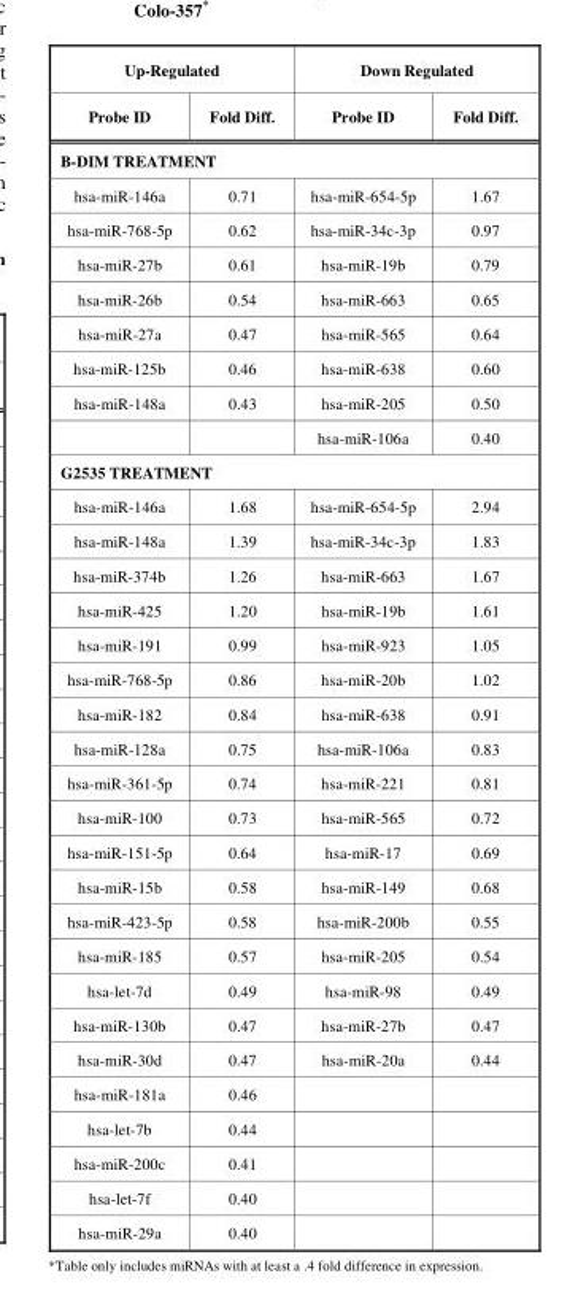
<table><thead><tr><td colspan="2">Up-Regulated</td><td colspan="2">Down Regulated</td></tr><tr><td>Probe ID</td><td>Fold Diff.</td><td>Probe ID</td><td>Fold Diff.</td></tr></thead><tbody><tr><td colspan="4">B-DIM TREATMENT</td></tr><tr><td>hsa-miR-146a</td><td>0.71</td><td>hsa-miR-654-5p</td><td>1.67</td></tr><tr><td>hsa-miR-768-5p</td><td>0.62</td><td>hsa-miR-34c-3p</td><td>0.97</td></tr><tr><td>hsa-miR-27b</td><td>0.61</td><td>hsa-miR-19b</td><td>0.79</td></tr><tr><td>hsa-miR-26b</td><td>0.54</td><td>hsa-miR-663</td><td>0.65</td></tr><tr><td>hsa-miR-27a</td><td>0.47</td><td>hsa-miR-565</td><td>0.64</td></tr><tr><td>hsa-miR-125b</td><td>0.46</td><td>hsa-miR-638</td><td>0.60</td></tr><tr><td rowspan="2">hsa-miR-148a</td><td>0.43</td><td>hsa-miR-205</td><td>0.50</td></tr><tr><td></td><td>hsa-miR-106a</td><td>0.40</td></tr><tr><td colspan="4">G2535 TREATMENT</td></tr><tr><td>hsa-miR-146a</td><td>1.68</td><td>hsa-miR-654-5p</td><td>2.94</td></tr><tr><td>hsa-miR-148a</td><td>1.39</td><td>hsa-miR-34c-3p</td><td>1.83</td></tr><tr><td>hsa-miR-374b</td><td>1.26</td><td>hsa-miR-663</td><td>1.67</td></tr><tr><td>hsa-miR-425</td><td>1.20</td><td>hsa-miR-19b</td><td>1.61</td></tr><tr><td>hsa-miR-191</td><td>0.99</td><td>hsa-miR-923</td><td>1.05</td></tr><tr><td>hsa-miR-768-5p</td><td>0.86</td><td>hsa-miR-20b</td><td>1.02</td></tr><tr><td>hsa-miR-182</td><td>0.84</td><td>hsa-miR-638</td><td>0.91</td></tr><tr><td>hsa-miR-128a</td><td>0.75</td><td>hsa-miR-106a</td><td>0.83</td></tr><tr><td>hsa-miR-361-5p</td><td>0.74</td><td>hsa-miR-221</td><td>0.81</td></tr><tr><td>hsa-miR-100</td><td>0.73</td><td>hsa-miR-565</td><td>0.72</td></tr><tr><td>hsa-miR-151-5p</td><td>0.64</td><td>hsa-miR-17</td><td>0.69</td></tr><tr><td>hsa-miR-15b</td><td>0.58</td><td>hsa-miR-149</td><td>0.68</td></tr><tr><td>hsa-miR-423-5p</td><td>0.58</td><td>hsa-miR-200b</td><td>0.55</td></tr><tr><td>hsa-miR-185</td><td>0.57</td><td>hsa-miR-205</td><td>0.54</td></tr><tr><td>hsa-let-7d</td><td>0.49</td><td>hsa-miR-98</td><td>0.49</td></tr><tr><td>hsa-miR-130b</td><td>0.47</td><td>hsa-miR-27b</td><td>0.47</td></tr><tr><td>hsa-miR-30d</td><td>0.47</td><td>hsa-miR-20a</td><td>0.44</td></tr><tr><td>hsa-miR-181a</td><td>0.46</td><td></td><td></td></tr><tr><td>hsa-let-7b</td><td>0.44</td><td></td><td></td></tr><tr><td>hsa-miR-200c</td><td>0.41</td><td></td><td></td></tr><tr><td>hsa-let-7f</td><td>0.40</td><td></td><td></td></tr><tr><td>hsa-miR-29a</td><td>0.40</td><td></td><td></td></tr></tbody></table>